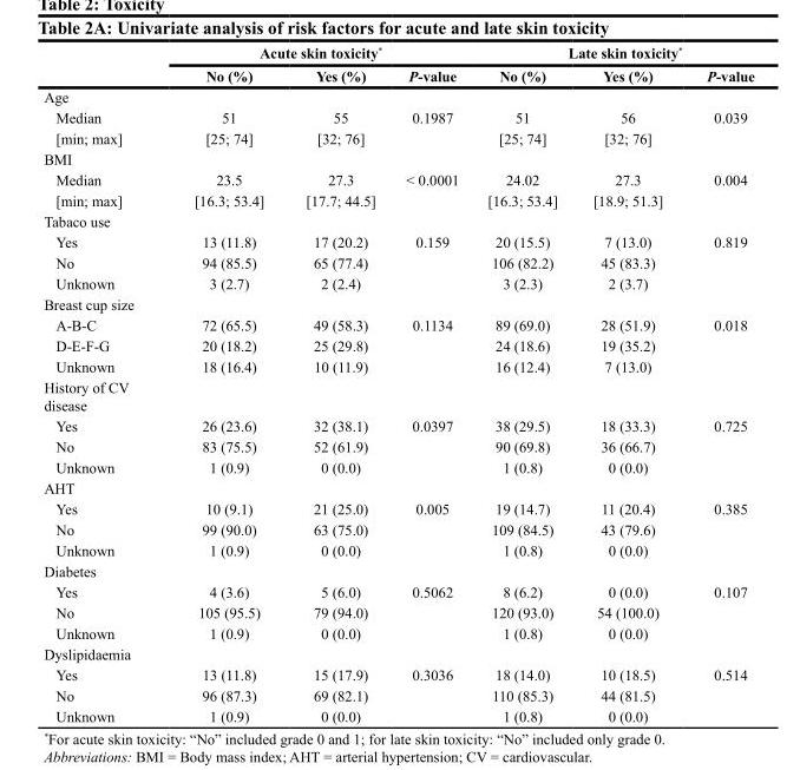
<table><thead><tr><td rowspan="2"></td><td colspan="3">Acute skin toxicity*</td><td colspan="3">Late skin toxicity*</td></tr><tr><td>No (%)</td><td>Yes (%)</td><td>P-value</td><td>No (%)</td><td>Yes (%)</td><td>P-value</td></tr></thead><tbody><tr><td colspan="7">Age</td></tr><tr><td>Median</td><td>51</td><td>55</td><td>0.1987</td><td>51</td><td>56</td><td>0.039</td></tr><tr><td>[min; max]</td><td>[25; 74]</td><td>[32; 76]</td><td></td><td>[25; 74]</td><td>[32; 76]</td><td></td></tr><tr><td colspan="7">BMI</td></tr><tr><td>Median</td><td>23.5</td><td>27.3</td><td>&lt; 0.0001</td><td>24.02</td><td>27.3</td><td>0.004</td></tr><tr><td>[min; max]</td><td>[16.3; 53.4]</td><td>[17.7; 44.5]</td><td></td><td>[16.3; 53.4]</td><td>[18.9; 51.3]</td><td></td></tr><tr><td colspan="7">Tabaco use</td></tr><tr><td>Yes</td><td>13 (11.8)</td><td>17 (20.2)</td><td>0.159</td><td>20 (15.5)</td><td>7 (13.0)</td><td>0.819</td></tr><tr><td>No</td><td>94 (85.5)</td><td>65 (77.4)</td><td></td><td>106 (82.2)</td><td>45 (83.3)</td><td></td></tr><tr><td>Unknown</td><td>3 (2.7)</td><td>2 (2.4)</td><td></td><td>3 (2.3)</td><td>2 (3.7)</td><td></td></tr><tr><td colspan="7">Breast cup size</td></tr><tr><td>A-B-C</td><td>72 (65.5)</td><td>49 (58.3)</td><td>0.1134</td><td>89 (69.0)</td><td>28 (51.9)</td><td>0.018</td></tr><tr><td>D-E-F-G</td><td>20 (18.2)</td><td>25 (29.8)</td><td></td><td>24 (18.6)</td><td>19 (35.2)</td><td></td></tr><tr><td>Unknown</td><td>18 (16.4)</td><td>10 (11.9)</td><td></td><td>16 (12.4)</td><td>7 (13.0)</td><td></td></tr><tr><td colspan="7">History of CV disease</td></tr><tr><td>Yes</td><td>26 (23.6)</td><td>32 (38.1)</td><td>0.0397</td><td>38 (29.5)</td><td>18 (33.3)</td><td>0.725</td></tr><tr><td>No</td><td>83 (75.5)</td><td>52 (61.9)</td><td></td><td>90 (69.8)</td><td>36 (66.7)</td><td></td></tr><tr><td>Unknown</td><td>1 (0.9)</td><td>0 (0.0)</td><td></td><td>1 (0.8)</td><td>0 (0.0)</td><td></td></tr><tr><td colspan="7">AHT</td></tr><tr><td>Yes</td><td>10 (9.1)</td><td>21 (25.0)</td><td>0.005</td><td>19 (14.7)</td><td>11 (20.4)</td><td>0.385</td></tr><tr><td>No</td><td>99 (90.0)</td><td>63 (75.0)</td><td></td><td>109 (84.5)</td><td>43 (79.6)</td><td></td></tr><tr><td>Unknown</td><td>1 (0.9)</td><td>0 (0.0)</td><td></td><td>1 (0.8)</td><td>0 (0.0)</td><td></td></tr><tr><td colspan="7">Diabetes</td></tr><tr><td>Yes</td><td>4 (3.6)</td><td>5 (6.0)</td><td>0.5062</td><td>8 (6.2)</td><td>0 (0.0)</td><td>0.107</td></tr><tr><td>No</td><td>105 (95.5)</td><td>79 (94.0)</td><td></td><td>120 (93.0)</td><td>54 (100.0)</td><td></td></tr><tr><td>Unknown</td><td>1 (0.9)</td><td>0 (0.0)</td><td></td><td>1 (0.8)</td><td>0 (0.0)</td><td></td></tr><tr><td colspan="7">Dyslipidaemia</td></tr><tr><td>Yes</td><td>13 (11.8)</td><td>15 (17.9)</td><td>0.3036</td><td>18 (14.0)</td><td>10 (18.5)</td><td>0.514</td></tr><tr><td>No</td><td>96 (87.3)</td><td>69 (82.1)</td><td></td><td>110 (85.3)</td><td>44 (81.5)</td><td></td></tr><tr><td>Unknown</td><td>1 (0.9)</td><td>0 (0.0)</td><td></td><td>1 (0.8)</td><td>0 (0.0)</td><td></td></tr></tbody></table>